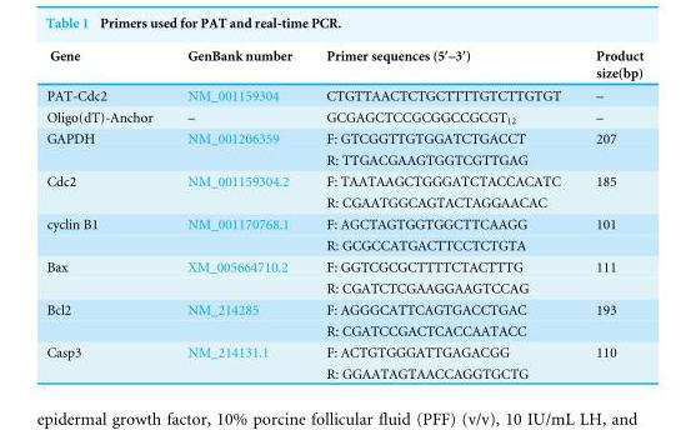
<table><thead><tr><td>Gene</td><td>GenBank number</td><td>Primer sequences (5′–3′)</td><td>Product size(bp)</td></tr></thead><tbody><tr><td>PAT-Cdc2</td><td>NM_001159304</td><td>CTGTTAACTCTGCTTTTGTCTTGTGT</td><td>–</td></tr><tr><td>Oligo(dT)-Anchor</td><td>–</td><td>GCGAGCTCCGCGGCCGCGT<sub>12</sub></td><td>–</td></tr><tr><td rowspan="2">GAPDH</td><td>NM_001206359</td><td>F: GTCGGTTGTGGATCTGACCT</td><td>207</td></tr><tr><td></td><td>R: TTGACGAAGTGGTCGTTGAG</td><td></td></tr><tr><td rowspan="2">Cdc2</td><td>NM_001159304.2</td><td>F: TAATAAGCTGGGATCTACCACATC</td><td>185</td></tr><tr><td></td><td>R: CGAATGGCAGTACTAGGAACAC</td><td></td></tr><tr><td rowspan="2">cyclin B1</td><td>NM_001170768.1</td><td>F: AGCTAGTGGTGGCTTCAAGG</td><td>101</td></tr><tr><td></td><td>R: GCGCCATGACTTCCTCTGTA</td><td></td></tr><tr><td rowspan="2">Bax</td><td>XM_005664710.2</td><td>F: GGTCGCGCTTTTCTACTTTG</td><td>111</td></tr><tr><td></td><td>R: CGATCTCGAAGGAAGTCCAG</td><td></td></tr><tr><td rowspan="2">Bcl2</td><td>NM_214285</td><td>F: AGGGCATTCAGTGACCTGAC</td><td>193</td></tr><tr><td></td><td>R: CGATCCGACTCACCAATACC</td><td></td></tr><tr><td rowspan="2">Casp3</td><td>NM_214131.1</td><td>F: ACTGTGGGATTGAGACGG</td><td>110</td></tr><tr><td></td><td>R: GGAATAGTAACCAGGTGCTG</td><td></td></tr></tbody></table>